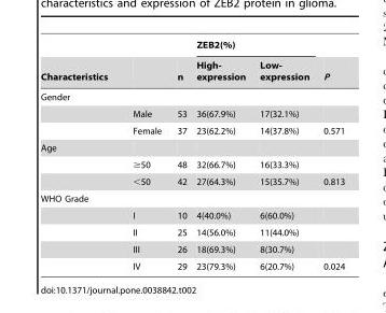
<table><thead><tr><td rowspan="2">Characteristics</td><td rowspan="2"></td><td rowspan="2">n</td><td colspan="2">ZEB2(%)</td><td rowspan="2">P</td></tr><tr><td>High- expression</td><td>Low- expression</td></tr></thead><tbody><tr><td colspan="6">Gender</td></tr><tr><td></td><td>Male</td><td>53</td><td>36(67.9%)</td><td>17(32.1%)</td><td></td></tr><tr><td></td><td>Female</td><td>37</td><td>23(62.2%)</td><td>14(37.8%)</td><td>0.571</td></tr><tr><td colspan="6">Age</td></tr><tr><td></td><td>≥50</td><td>48</td><td>32(66.7%)</td><td>16(33.3%)</td><td></td></tr><tr><td></td><td>&lt;50</td><td>42</td><td>27(64.3%)</td><td>15(35.7%)</td><td>0.813</td></tr><tr><td colspan="6">WHO Grade</td></tr><tr><td></td><td>I</td><td>10</td><td>4(40.0%)</td><td>6(60.0%)</td><td></td></tr><tr><td></td><td>II</td><td>25</td><td>14(56.0%)</td><td>11(44.0%)</td><td></td></tr><tr><td></td><td>III</td><td>26</td><td>18(69.3%)</td><td>8(30.7%)</td><td></td></tr><tr><td></td><td>IV</td><td>29</td><td>23(79.3%)</td><td>6(20.7%)</td><td>0.024</td></tr></tbody></table>